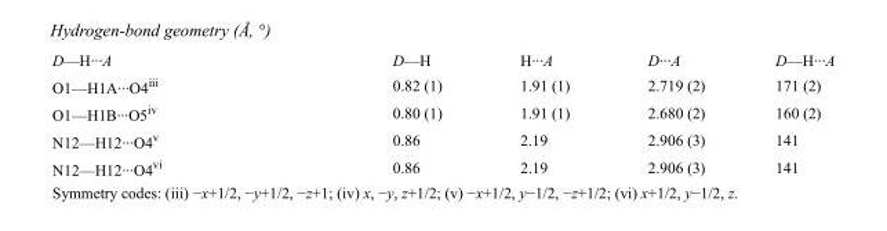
<table><tbody><tr><td>D—H···A</td><td>D—H</td><td>H···A</td><td>D···A</td><td>D—H···A</td></tr><tr><td>O1—H1A···O4<sup>iii</sup></td><td>0.82 (1)</td><td>1.91 (1)</td><td>2.719 (2)</td><td>171 (2)</td></tr><tr><td>O1—H1B···O5<sup>iv</sup></td><td>0.80 (1)</td><td>1.91 (1)</td><td>2.680 (2)</td><td>160 (2)</td></tr><tr><td>N12—H12···O4<sup>v</sup></td><td>0.86</td><td>2.19</td><td>2.906 (3)</td><td>141</td></tr><tr><td>N12—H12···O4<sup>vi</sup></td><td>0.86</td><td>2.19</td><td>2.906 (3)</td><td>141</td></tr></tbody></table>